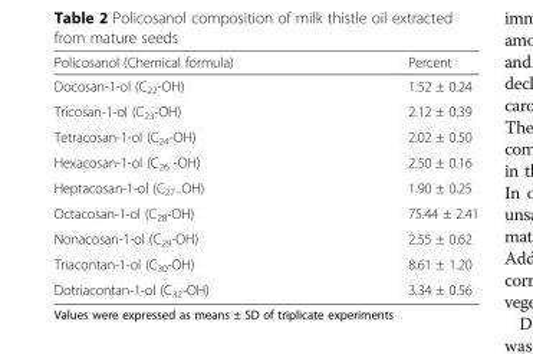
<table><thead><tr><td>Policosanol (Chemical formula)</td><td>Percent</td></tr></thead><tbody><tr><td>Docosan-1-ol (C<sub>22</sub>-OH)</td><td>1.52 ± 0.24</td></tr><tr><td>Tricosan-1-ol (C<sub>23</sub>-OH)</td><td>2.12 ± 0.39</td></tr><tr><td>Tetracosan-1-ol (C<sub>24</sub>-OH)</td><td>2.02 ± 0.50</td></tr><tr><td>Hexacosan-1-ol (C<sub>26</sub> -OH)</td><td>2.50 ± 0.16</td></tr><tr><td>Heptacosan-1-ol (C<sub>27−</sub>OH)</td><td>1.90 ± 0.25</td></tr><tr><td>Octacosan-1-ol (C<sub>28</sub>-OH)</td><td>75.44 ± 2.41</td></tr><tr><td>Nonacosan-1-ol (C<sub>29</sub>-OH)</td><td>2.55 ± 0.62</td></tr><tr><td>Triacontan-1-ol (C<sub>30</sub>-OH)</td><td>8.61 ± 1.20</td></tr><tr><td>Dotriacontan-1-ol (C<sub>32</sub>-OH)</td><td>3.34 ± 0.56</td></tr></tbody></table>